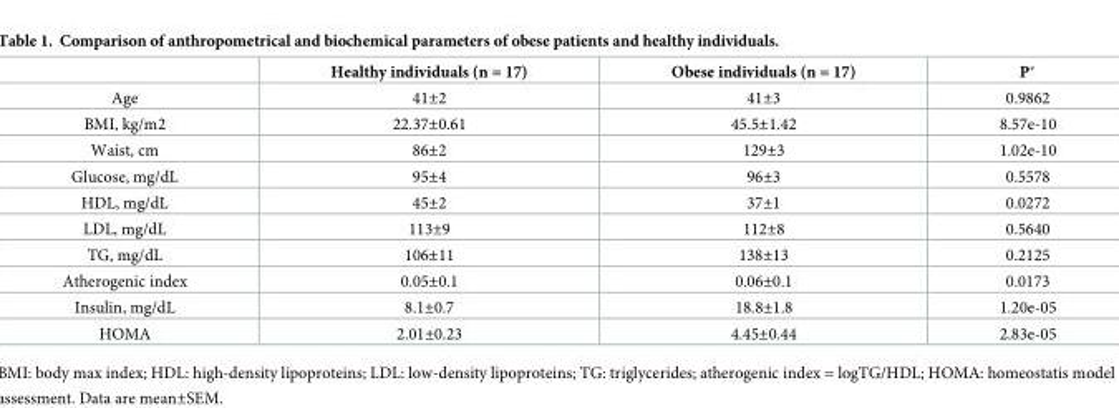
<table><thead><tr><td></td><td>Healthy individuals (n = 17)</td><td>Obese individuals (n = 17)</td><td>P*</td></tr></thead><tbody><tr><td>Age</td><td>41±2</td><td>41±3</td><td>0.9862</td></tr><tr><td>BMI, kg/m2</td><td>22.37±0.61</td><td>45.5±1.42</td><td>8.57e-10</td></tr><tr><td>Waist, cm</td><td>86±2</td><td>129±3</td><td>1.02e-10</td></tr><tr><td>Glucose, mg/dL</td><td>95±4</td><td>96±3</td><td>0.5578</td></tr><tr><td>HDL, mg/dL</td><td>45±2</td><td>37±1</td><td>0.0272</td></tr><tr><td>LDL, mg/dL</td><td>113±9</td><td>112±8</td><td>0.5640</td></tr><tr><td>TG, mg/dL</td><td>106±11</td><td>138±13</td><td>0.2125</td></tr><tr><td>Atherogenic index</td><td>0.05±0.1</td><td>0.06±0.1</td><td>0.0173</td></tr><tr><td>Insulin, mg/dL</td><td>8.1±0.7</td><td>18.8±1.8</td><td>1.20e-05</td></tr><tr><td>HOMA</td><td>2.01±0.23</td><td>4.45±0.44</td><td>2.83e-05</td></tr></tbody></table>